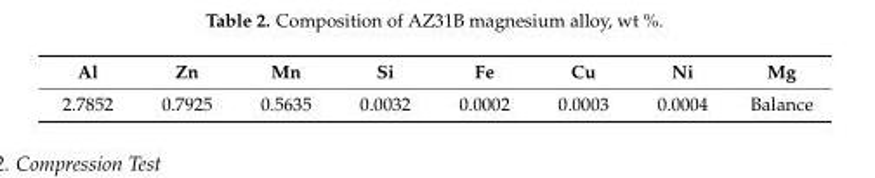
<table><thead><tr><td>Al</td><td>Zn</td><td>Mn</td><td>Si</td><td>Fe</td><td>Cu</td><td>Ni</td><td>Mg</td></tr></thead><tbody><tr><td>2.7852</td><td>0.7925</td><td>0.5635</td><td>0.0032</td><td>0.0002</td><td>0.0003</td><td>0.0004</td><td>Balance</td></tr></tbody></table>